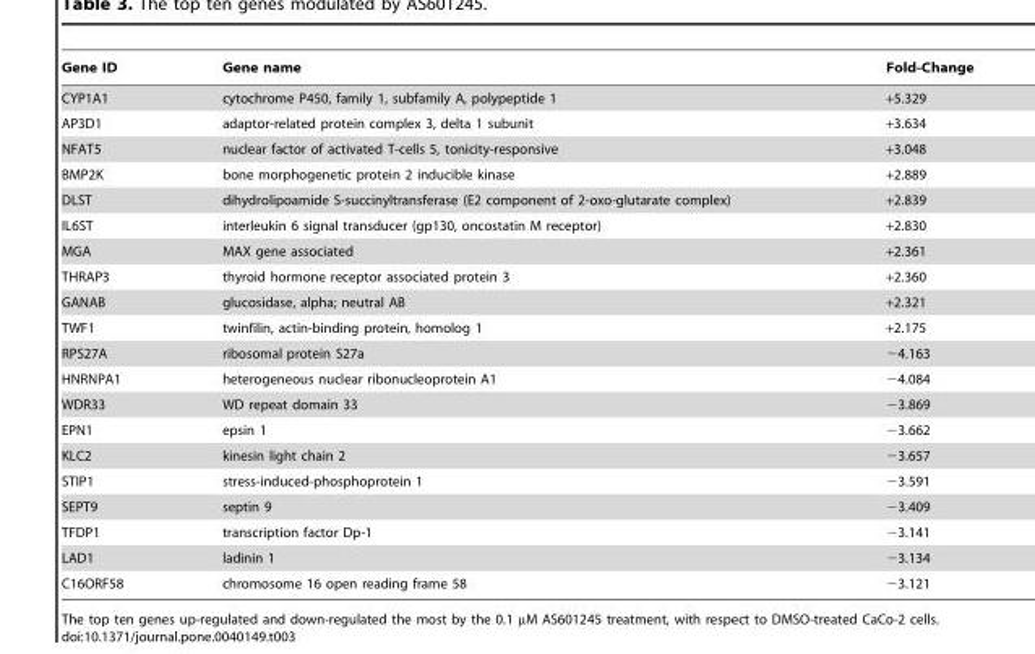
<table><thead><tr><td>Gene ID</td><td>Gene name</td><td>Fold-Change</td></tr></thead><tbody><tr><td>CYP1A1</td><td>cytochrome P450, family 1, subfamily A, polypeptide 1</td><td>+5.329</td></tr><tr><td>AP3D1</td><td>adaptor-related protein complex 3, delta 1 subunit</td><td>+3.634</td></tr><tr><td>NFAT5</td><td>nuclear factor of activated T-cells 5, tonicity-responsive</td><td>+3.048</td></tr><tr><td>BMP2K</td><td>bone morphogenetic protein 2 inducible kinase</td><td>+2.889</td></tr><tr><td>DLST</td><td>dihydrolipoamide S-succinyltransferase (E2 component of 2-oxo-glutarate complex)</td><td>+2.839</td></tr><tr><td>IL6ST</td><td>interleukin 6 signal transducer (gp130, oncostatin M receptor)</td><td>+2.830</td></tr><tr><td>MGA</td><td>MAX gene associated</td><td>+2.361</td></tr><tr><td>THRAP3</td><td>thyroid hormone receptor associated protein 3</td><td>+2.360</td></tr><tr><td>GANAB</td><td>glucosidase, alpha; neutral AB</td><td>+2.321</td></tr><tr><td>TWF1</td><td>twinfilin, actin-binding protein, homolog 1</td><td>+2.175</td></tr><tr><td>RPS27A</td><td>ribosomal protein S27a</td><td>−4.163</td></tr><tr><td>HNRNPA1</td><td>heterogeneous nuclear ribonucleoprotein A1</td><td>−4.084</td></tr><tr><td>WDR33</td><td>WD repeat domain 33</td><td>−3.869</td></tr><tr><td>EPN1</td><td>epsin 1</td><td>−3.662</td></tr><tr><td>KLC2</td><td>kinesin light chain 2</td><td>−3.657</td></tr><tr><td>STIP1</td><td>stress-induced-phosphoprotein 1</td><td>−3.591</td></tr><tr><td>SEPT9</td><td>septin 9</td><td>−3.409</td></tr><tr><td>TFDP1</td><td>transcription factor Dp-1</td><td>−3.141</td></tr><tr><td>LAD1</td><td>ladinin 1</td><td>−3.134</td></tr><tr><td>C16ORF58</td><td>chromosome 16 open reading frame 58</td><td>−3.121</td></tr></tbody></table>